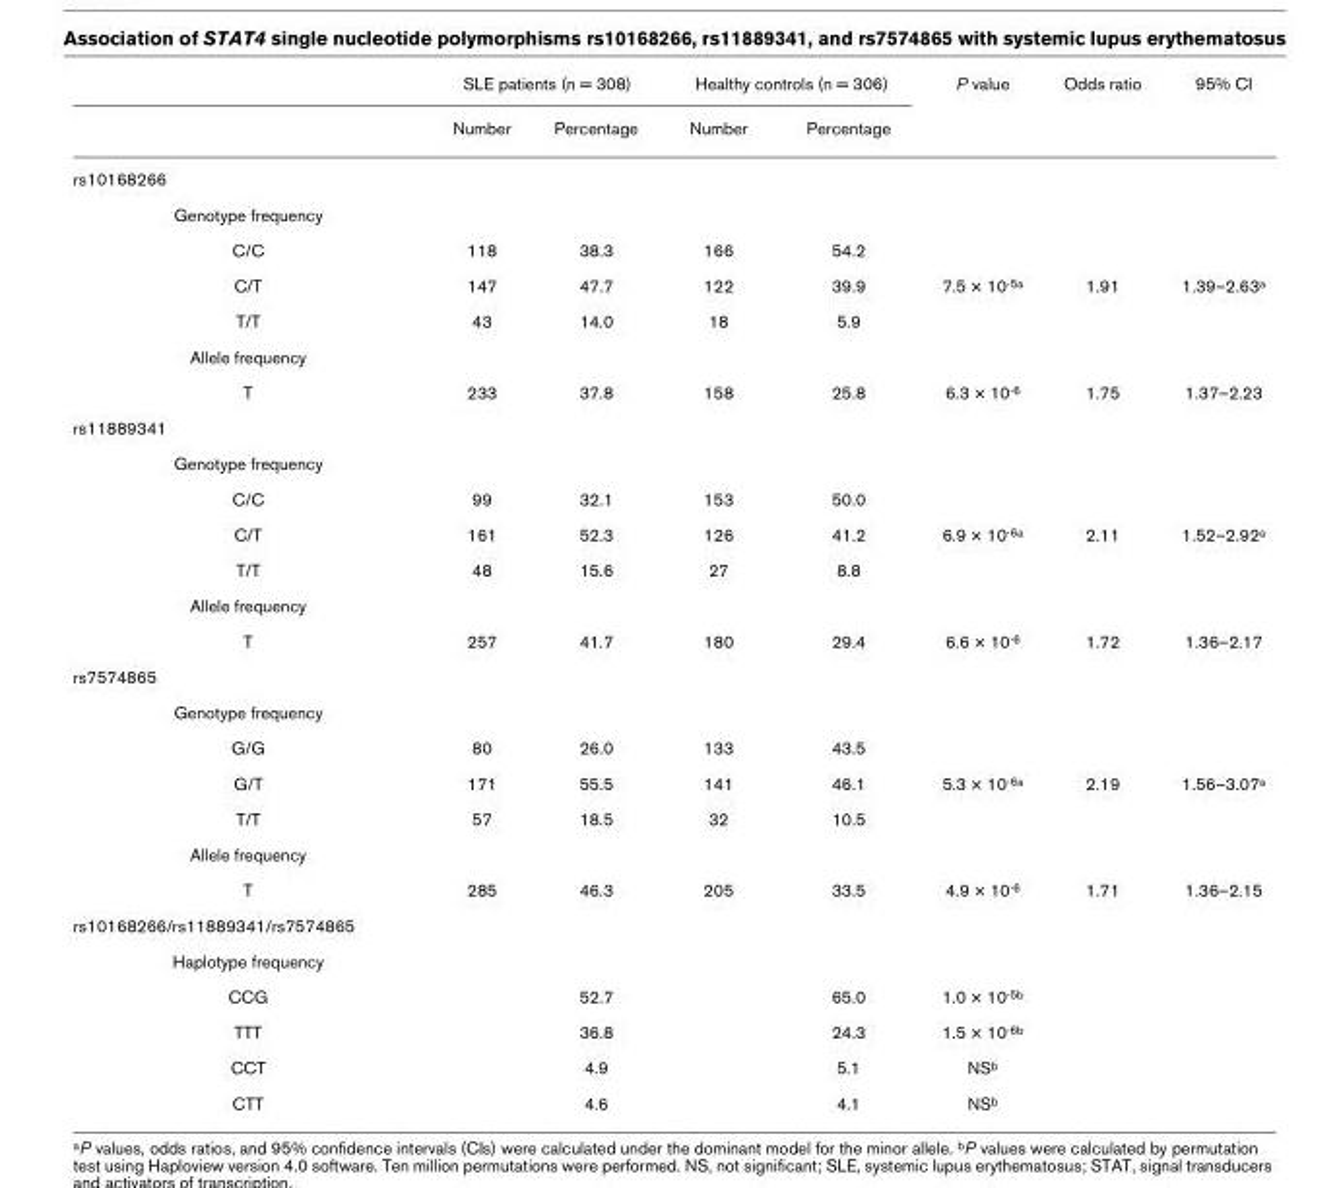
<table><thead><tr><td rowspan="2"></td><td colspan="2">SLE patients (n = 308)</td><td colspan="2">Healthy controls (n = 306)</td><td rowspan="2">P value</td><td rowspan="2">Odds ratio</td><td rowspan="2">95% CI</td></tr><tr><td>Number</td><td>Percentage</td><td>Number</td><td>Percentage</td></tr></thead><tbody><tr><td colspan="8">rs10168266</td></tr><tr><td colspan="8">Genotype frequency</td></tr><tr><td>C/C</td><td>118</td><td>38.3</td><td>166</td><td>54.2</td><td></td><td></td><td></td></tr><tr><td>C/T</td><td>147</td><td>47.7</td><td>122</td><td>39.9</td><td>7.5 × 10<sup>-5a</sup></td><td>1.91</td><td>1.39–2.63<sup>a</sup></td></tr><tr><td>T/T</td><td>43</td><td>14.0</td><td>18</td><td>5.9</td><td></td><td></td><td></td></tr><tr><td colspan="8">Allele frequency</td></tr><tr><td>T</td><td>233</td><td>37.8</td><td>158</td><td>25.8</td><td>6.3 × 10<sup>-6</sup></td><td>1.75</td><td>1.37–2.23</td></tr><tr><td colspan="8">rs11889341</td></tr><tr><td colspan="8">Genotype frequency</td></tr><tr><td>C/C</td><td>99</td><td>32.1</td><td>153</td><td>50.0</td><td></td><td></td><td></td></tr><tr><td>C/T</td><td>161</td><td>52.3</td><td>126</td><td>41.2</td><td>6.9 × 10<sup>-6a</sup></td><td>2.11</td><td>1.52–2.92<sup>a</sup></td></tr><tr><td>T/T</td><td>48</td><td>15.6</td><td>27</td><td>8.8</td><td></td><td></td><td></td></tr><tr><td colspan="8">Allele frequency</td></tr><tr><td>T</td><td>257</td><td>41.7</td><td>180</td><td>29.4</td><td>6.6 × 10<sup>-6</sup></td><td>1.72</td><td>1.36–2.17</td></tr><tr><td colspan="8">rs7574865</td></tr><tr><td colspan="8">Genotype frequency</td></tr><tr><td>G/G</td><td>80</td><td>26.0</td><td>133</td><td>43.5</td><td></td><td></td><td></td></tr><tr><td>G/T</td><td>171</td><td>55.5</td><td>141</td><td>46.1</td><td>5.3 × 10<sup>-6a</sup></td><td>2.19</td><td>1.56–3.07<sup>a</sup></td></tr><tr><td>T/T</td><td>57</td><td>18.5</td><td>32</td><td>10.5</td><td></td><td></td><td></td></tr><tr><td colspan="8">Allele frequency</td></tr><tr><td>T</td><td>285</td><td>46.3</td><td>205</td><td>33.5</td><td>4.9 × 10<sup>-6</sup></td><td>1.71</td><td>1.36–2.15</td></tr><tr><td colspan="8">rs10168266/rs11889341/rs7574865</td></tr><tr><td colspan="8">Haplotype frequency</td></tr><tr><td>CCG</td><td></td><td>52.7</td><td></td><td>65.0</td><td>1.0 × 10<sup>-5b</sup></td><td></td><td></td></tr><tr><td>TTT</td><td></td><td>36.8</td><td></td><td>24.3</td><td>1.5 × 10<sup>-6b</sup></td><td></td><td></td></tr><tr><td>CCT</td><td></td><td>4.9</td><td></td><td>5.1</td><td>NS<sup>b</sup></td><td></td><td></td></tr><tr><td>CTT</td><td></td><td>4.6</td><td></td><td>4.1</td><td>NS<sup>b</sup></td><td></td><td></td></tr></tbody></table>